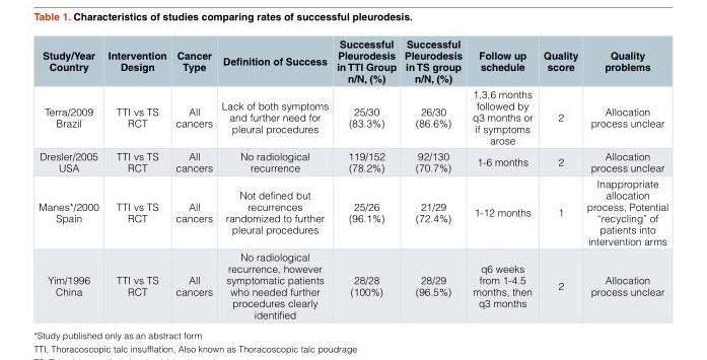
<table><thead><tr><td>Study/Year Country</td><td>Intervention Design</td><td>Cancer Type</td><td>Definition of Success</td><td>Successful Pleurodesis in TTI Group n/N, (%)</td><td>Successful Pleurodesis in TS group n/N, (%)</td><td>Follow up schedule</td><td>Quality score</td><td>Quality problems</td></tr></thead><tbody><tr><td>Terra/2009 Brazil</td><td>TTI vs TS RCT</td><td>All cancers</td><td>Lack of both symptoms and further need for pleural procedures</td><td>25/30 (83.3%)</td><td>26/30 (86.6%)</td><td>1,3,6 months followed by q3 months or if symptoms arose</td><td>2</td><td>Allocation process unclear</td></tr><tr><td>Dresler/2005 USA</td><td>TTI vs TS RCT</td><td>All cancers</td><td>No radiological recurrence</td><td>119/152 (78.2%)</td><td>92/130 (70.7%)</td><td>1-6 months</td><td>2</td><td>Allocation process unclear</td></tr><tr><td>Manes*/2000 Spain</td><td>TTI vs TS RCT</td><td>All cancers</td><td>Not defined but recurrences randomized to further pleural procedures</td><td>25/26 (96.1%)</td><td>21/29 (72.4%)</td><td>1-12 months</td><td>1</td><td>Inappropriate allocation process, Potential “recycling” of patients into intervention arms</td></tr><tr><td>Yim/1996 China</td><td>TTI vs TS RCT</td><td>All cancers</td><td>No radiological recurrence, however symptomatic patients who needed further procedures clearly identified</td><td>28/28 (100%)</td><td>28/29 (96.5%)</td><td>q6 weeks from 1-4.5 months, then q3 months</td><td>2</td><td>Allocation process unclear</td></tr></tbody></table>